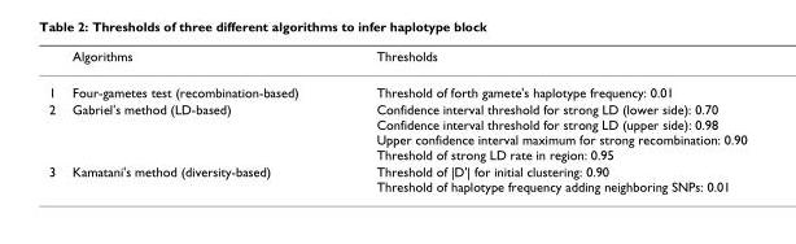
<table><thead><tr><td></td><td>Algorithms</td><td>Thresholds</td></tr></thead><tbody><tr><td>1</td><td>Four-gametes test (recombination-based)</td><td>Threshold of forth gamete&#x27;s haplotype frequency: 0.01</td></tr><tr><td>2</td><td>Gabriel&#x27;s method (LD-based)</td><td>Confidence interval threshold for strong LD (lower side): 0.70 Confidence interval threshold for strong LD (upper side): 0.98 Upper confidence interval maximum for strong recombination: 0.90 Threshold of strong LD rate in region: 0.95</td></tr><tr><td>3</td><td>Kamatani&#x27;s method (diversity-based)</td><td>Threshold of |D&#x27;| for initial clustering: 0.90 Threshold of haplotype frequency adding neighboring SNPs: 0.01</td></tr></tbody></table>